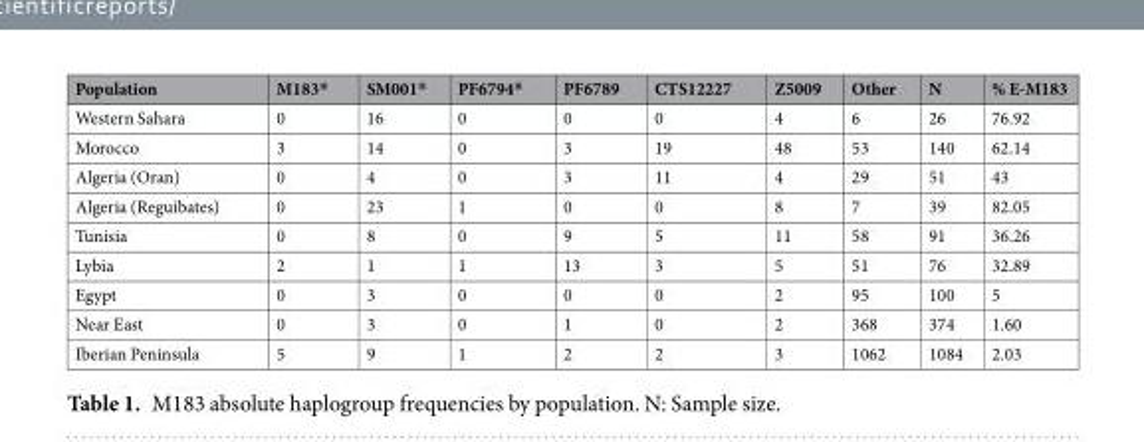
<table><thead><tr><td>Population</td><td>M183*</td><td>SM001*</td><td>PF6794*</td><td>PF6789</td><td>CTS12227</td><td>Z5009</td><td>Other</td><td>N</td><td>% E-M183</td></tr></thead><tbody><tr><td>Western Sahara</td><td>0</td><td>16</td><td>0</td><td>0</td><td>0</td><td>4</td><td>6</td><td>26</td><td>76.92</td></tr><tr><td>Morocco</td><td>3</td><td>14</td><td>0</td><td>3</td><td>19</td><td>48</td><td>53</td><td>140</td><td>62.14</td></tr><tr><td>Algeria (Oran)</td><td>0</td><td>4</td><td>0</td><td>3</td><td>11</td><td>4</td><td>29</td><td>51</td><td>43</td></tr><tr><td>Algeria (Reguibates)</td><td>0</td><td>23</td><td>1</td><td>0</td><td>0</td><td>8</td><td>7</td><td>39</td><td>82.05</td></tr><tr><td>Tunisia</td><td>0</td><td>8</td><td>0</td><td>9</td><td>5</td><td>11</td><td>58</td><td>91</td><td>36.26</td></tr><tr><td>Lybia</td><td>2</td><td>1</td><td>1</td><td>13</td><td>3</td><td>5</td><td>51</td><td>76</td><td>32.89</td></tr><tr><td>Egypt</td><td>0</td><td>3</td><td>0</td><td>0</td><td>0</td><td>2</td><td>95</td><td>100</td><td>5</td></tr><tr><td>Near East</td><td>0</td><td>3</td><td>0</td><td>1</td><td>0</td><td>2</td><td>368</td><td>374</td><td>1.60</td></tr><tr><td>Iberian Peninsula</td><td>5</td><td>9</td><td>1</td><td>2</td><td>2</td><td>3</td><td>1062</td><td>1084</td><td>2.03</td></tr></tbody></table>